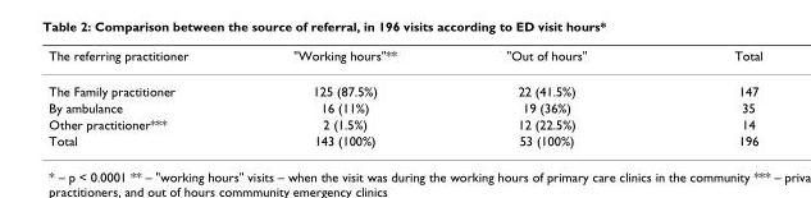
<table><thead><tr><td>The referring practitioner</td><td>&quot;Working hours&quot;**</td><td>&quot;Out of hours&quot;</td><td>Total</td></tr></thead><tbody><tr><td>The Family practitioner</td><td>125 (87.5%)</td><td>22 (41.5%)</td><td>147</td></tr><tr><td>By ambulance</td><td>16 (11%)</td><td>19 (36%)</td><td>35</td></tr><tr><td>Other practitioner***</td><td>2 (1.5%)</td><td>12 (22.5%)</td><td>14</td></tr><tr><td>Total</td><td>143 (100%)</td><td>53 (100%)</td><td>196</td></tr></tbody></table>